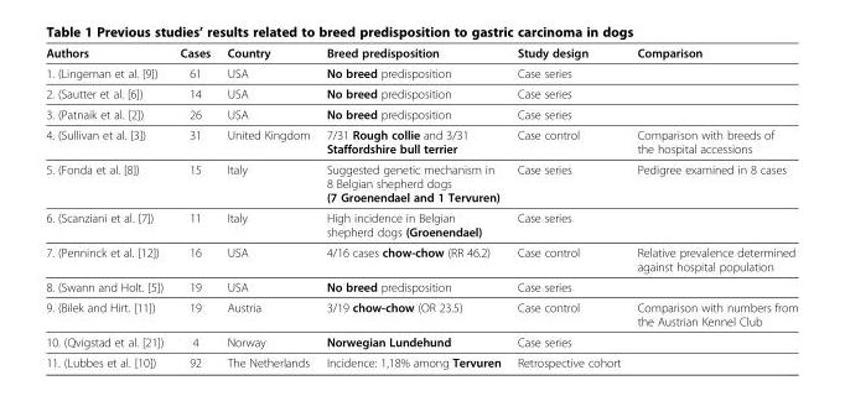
<table><thead><tr><td>Authors</td><td>Cases</td><td>Country</td><td>Breed predisposition</td><td>Study design</td><td>Comparison</td></tr></thead><tbody><tr><td>1. (Lingeman et al. [9])</td><td>61</td><td>USA</td><td>No breed predisposition</td><td>Case series</td><td></td></tr><tr><td>2. (Sautter et al. [6])</td><td>14</td><td>USA</td><td>No breed predisposition</td><td>Case series</td><td></td></tr><tr><td>3. (Patnaik et al. [2])</td><td>26</td><td>USA</td><td>No breed predisposition</td><td>Case series</td><td></td></tr><tr><td>4. (Sullivan et al. [3])</td><td>31</td><td>United Kingdom</td><td>7/31 Rough collie and 3/31 Staffordshire bull terrier</td><td>Case control</td><td>Comparison with breeds of the hospital accessions</td></tr><tr><td>5. (Fonda et al. [8])</td><td>15</td><td>Italy</td><td>Suggested genetic mechanism in 8 Belgian shepherd dogs (7 Groenendael and 1 Tervuren)</td><td>Case series</td><td>Pedigree examined in 8 cases</td></tr><tr><td>6. (Scanziani et al. [7])</td><td>11</td><td>Italy</td><td>High incidence in Belgian shepherd dogs (Groenendael)</td><td>Case series</td><td></td></tr><tr><td>7. (Penninck et al. [12])</td><td>16</td><td>USA</td><td>4/16 cases chow-chow (RR 46.2)</td><td>Case control</td><td>Relative prevalence determined against hospital population</td></tr><tr><td>8. (Swann and Holt. [5])</td><td>19</td><td>USA</td><td>No breed predisposition</td><td>Case series</td><td></td></tr><tr><td>9. (Bilek and Hirt. [11])</td><td>19</td><td>Austria</td><td>3/19 chow-chow (OR 23.5)</td><td>Case control</td><td>Comparison with numbers from the Austrian Kennel Club</td></tr><tr><td>10. (Qvigstad et al. [21])</td><td>4</td><td>Norway</td><td>Norwegian Lundehund</td><td>Case series</td><td></td></tr><tr><td>11. (Lubbes et al. [10])</td><td>92</td><td>The Netherlands</td><td>Incidence: 1,18% among Tervuren</td><td>Retrospective cohort</td><td></td></tr></tbody></table>